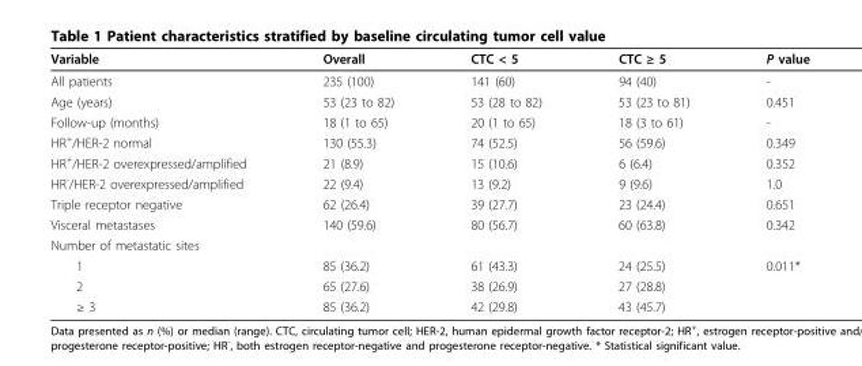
<table><thead><tr><td>Variable</td><td>Overall</td><td>CTC &lt; 5</td><td>CTC ≥ 5</td><td>P value</td></tr></thead><tbody><tr><td>All patients</td><td>235 (100)</td><td>141 (60)</td><td>94 (40)</td><td>-</td></tr><tr><td>Age (years)</td><td>53 (23 to 82)</td><td>53 (28 to 82)</td><td>53 (23 to 81)</td><td>0.451</td></tr><tr><td>Follow-up (months)</td><td>18 (1 to 65)</td><td>20 (1 to 65)</td><td>18 (3 to 61)</td><td>-</td></tr><tr><td>HR<sup>+</sup>/HER-2 normal</td><td>130 (55.3)</td><td>74 (52.5)</td><td>56 (59.6)</td><td>0.349</td></tr><tr><td>HR<sup>+</sup>/HER-2 overexpressed/amplified</td><td>21 (8.9)</td><td>15 (10.6)</td><td>6 (6.4)</td><td>0.352</td></tr><tr><td>HR<sup>-</sup>/HER-2 overexpressed/amplified</td><td>22 (9.4)</td><td>13 (9.2)</td><td>9 (9.6)</td><td>1.0</td></tr><tr><td>Triple receptor negative</td><td>62 (26.4)</td><td>39 (27.7)</td><td>23 (24.4)</td><td>0.651</td></tr><tr><td>Visceral metastases</td><td>140 (59.6)</td><td>80 (56.7)</td><td>60 (63.8)</td><td>0.342</td></tr><tr><td colspan="5">Number of metastatic sites</td></tr><tr><td>1</td><td>85 (36.2)</td><td>61 (43.3)</td><td>24 (25.5)</td><td>0.011*</td></tr><tr><td>2</td><td>65 (27.6)</td><td>38 (26.9)</td><td>27 (28.8)</td><td></td></tr><tr><td>≥ 3</td><td>85 (36.2)</td><td>42 (29.8)</td><td>43 (45.7)</td><td></td></tr></tbody></table>